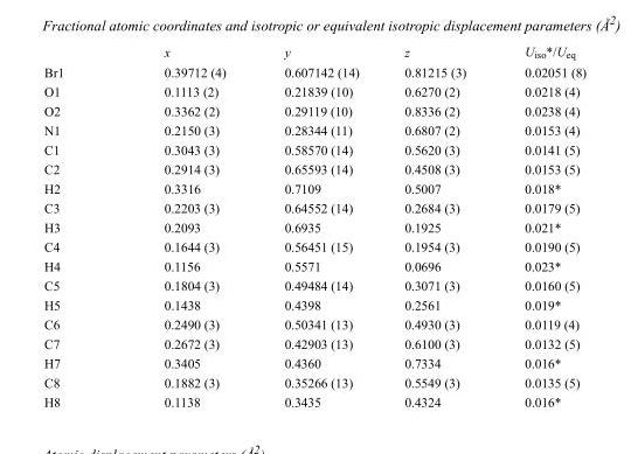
<table><thead><tr><td></td><td>x</td><td>y</td><td>z</td><td>U<sub>iso</sub>*/U<sub>eq</sub></td></tr></thead><tbody><tr><td>Br1</td><td>0.39712 (4)</td><td>0.607142 (14)</td><td>0.81215 (3)</td><td>0.02051 (8)</td></tr><tr><td>O1</td><td>0.1113 (2)</td><td>0.21839 (10)</td><td>0.6270 (2)</td><td>0.0218 (4)</td></tr><tr><td>O2</td><td>0.3362 (2)</td><td>0.29119 (10)</td><td>0.8336 (2)</td><td>0.0238 (4)</td></tr><tr><td>N1</td><td>0.2150 (3)</td><td>0.28344 (11)</td><td>0.6807 (2)</td><td>0.0153 (4)</td></tr><tr><td>C1</td><td>0.3043 (3)</td><td>0.58570 (14)</td><td>0.5620 (3)</td><td>0.0141 (5)</td></tr><tr><td>C2</td><td>0.2914 (3)</td><td>0.65593 (14)</td><td>0.4508 (3)</td><td>0.0153 (5)</td></tr><tr><td>H2</td><td>0.3316</td><td>0.7109</td><td>0.5007</td><td>0.018*</td></tr><tr><td>C3</td><td>0.2203 (3)</td><td>0.64552 (14)</td><td>0.2684 (3)</td><td>0.0179 (5)</td></tr><tr><td>H3</td><td>0.2093</td><td>0.6935</td><td>0.1925</td><td>0.021*</td></tr><tr><td>C4</td><td>0.1644 (3)</td><td>0.56451 (15)</td><td>0.1954 (3)</td><td>0.0190 (5)</td></tr><tr><td>H4</td><td>0.1156</td><td>0.5571</td><td>0.0696</td><td>0.023*</td></tr><tr><td>C5</td><td>0.1804 (3)</td><td>0.49484 (14)</td><td>0.3071 (3)</td><td>0.0160 (5)</td></tr><tr><td>H5</td><td>0.1438</td><td>0.4398</td><td>0.2561</td><td>0.019*</td></tr><tr><td>C6</td><td>0.2490 (3)</td><td>0.50341 (13)</td><td>0.4930 (3)</td><td>0.0119 (4)</td></tr><tr><td>C7</td><td>0.2672 (3)</td><td>0.42903 (13)</td><td>0.6100 (3)</td><td>0.0132 (5)</td></tr><tr><td>H7</td><td>0.3405</td><td>0.4360</td><td>0.7334</td><td>0.016*</td></tr><tr><td>C8</td><td>0.1882 (3)</td><td>0.35266 (13)</td><td>0.5549 (3)</td><td>0.0135 (5)</td></tr><tr><td>H8</td><td>0.1138</td><td>0.3435</td><td>0.4324</td><td>0.016*</td></tr></tbody></table>